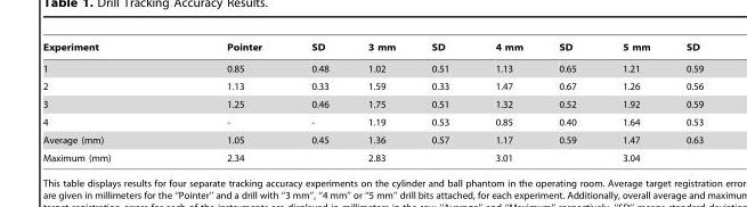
<table><thead><tr><td>Experiment</td><td>Pointer</td><td>SD</td><td>3 mm</td><td>SD</td><td>4 mm</td><td>SD</td><td>5 mm</td><td>SD</td></tr></thead><tbody><tr><td>1</td><td>0.85</td><td>0.48</td><td>1.02</td><td>0.51</td><td>1.13</td><td>0.65</td><td>1.21</td><td>0.59</td></tr><tr><td>2</td><td>1.13</td><td>0.33</td><td>1.59</td><td>0.33</td><td>1.47</td><td>0.67</td><td>1.26</td><td>0.56</td></tr><tr><td>3</td><td>1.25</td><td>0.46</td><td>1.75</td><td>0.51</td><td>1.32</td><td>0.52</td><td>1.92</td><td>0.59</td></tr><tr><td>4</td><td>-</td><td>-</td><td>1.19</td><td>0.53</td><td>0.85</td><td>0.40</td><td>1.64</td><td>0.53</td></tr><tr><td>Average (mm)</td><td>1.05</td><td>0.45</td><td>1.36</td><td>0.57</td><td>1.17</td><td>0.59</td><td>1.47</td><td>0.63</td></tr><tr><td>Maximum (mm)</td><td>2.34</td><td></td><td>2.83</td><td></td><td>3.01</td><td></td><td>3.04</td><td></td></tr></tbody></table>